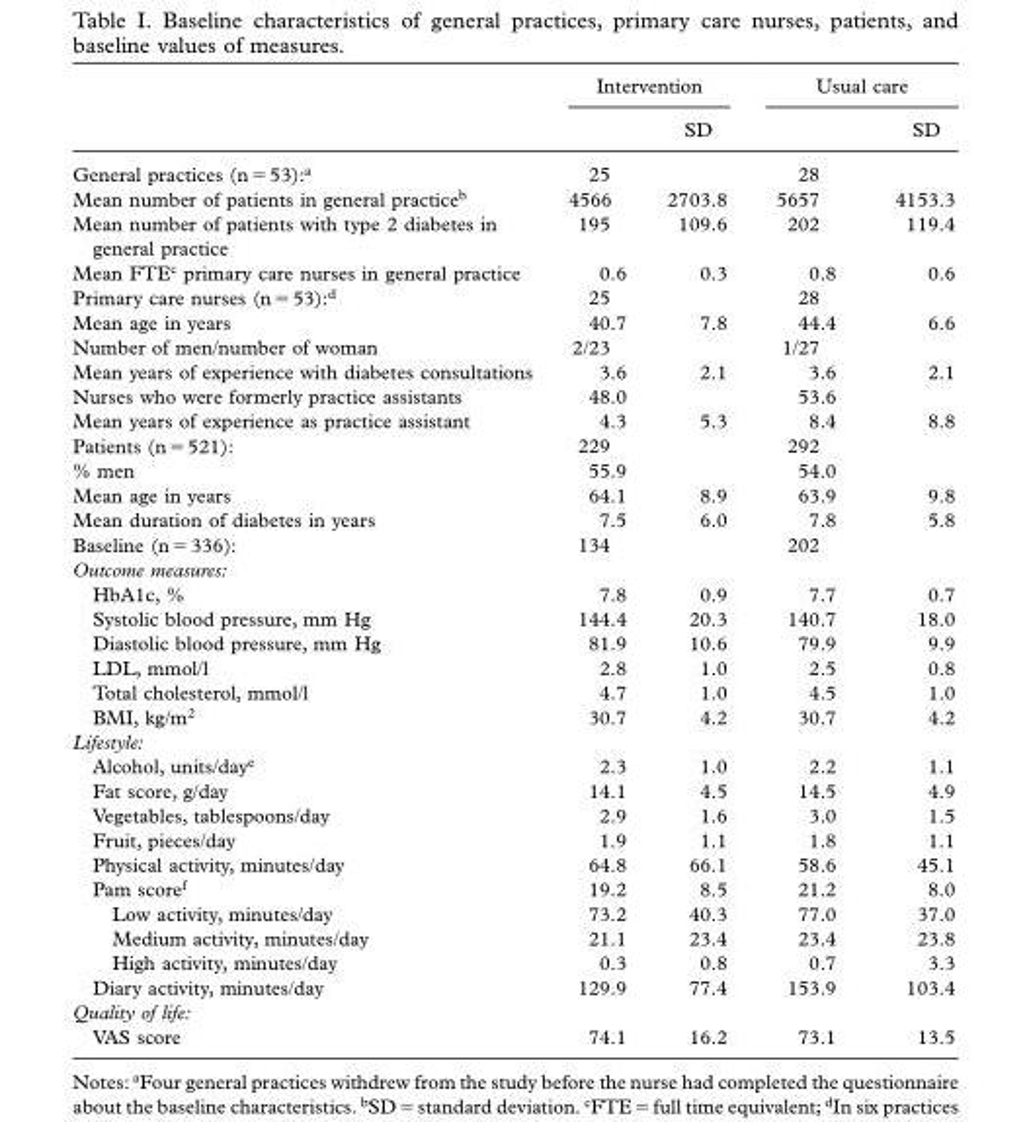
<table><thead><tr><td rowspan="2"></td><td colspan="2">Intervention</td><td colspan="2">Usual care</td></tr><tr><td></td><td>SD</td><td></td><td>SD</td></tr></thead><tbody><tr><td>General practices (n = 53): <sup>a</sup></td><td>25</td><td></td><td>28</td><td></td></tr><tr><td>Mean number of patients in general practice <sup>b</sup></td><td>4566</td><td>2703.8</td><td>5657</td><td>4153.3</td></tr><tr><td>Mean number of patients with type 2 diabetes in general practice</td><td>195</td><td>109.6</td><td>202</td><td>119.4</td></tr><tr><td>Mean FTE <sup>c</sup> primary care nurses in general practice</td><td>0.6</td><td>0.3</td><td>0.8</td><td>0.6</td></tr><tr><td>Primary care nurses (n = 53): <sup>d</sup></td><td>25</td><td></td><td>28</td><td></td></tr><tr><td>Mean age in years</td><td>40.7</td><td>7.8</td><td>44.4</td><td>6.6</td></tr><tr><td>Number of men/number of woman</td><td>2/23</td><td></td><td>1/27</td><td></td></tr><tr><td>Mean years of experience with diabetes consultations</td><td>3.6</td><td>2.1</td><td>3.6</td><td>2.1</td></tr><tr><td>Nurses who were formerly practice assistants</td><td>48.0</td><td></td><td>53.6</td><td></td></tr><tr><td>Mean years of experience as practice assistant</td><td>4.3</td><td>5.3</td><td>8.4</td><td>8.8</td></tr><tr><td>Patients (n = 521):</td><td>229</td><td></td><td>292</td><td></td></tr><tr><td>% men</td><td>55.9</td><td></td><td>54.0</td><td></td></tr><tr><td>Mean age in years</td><td>64.1</td><td>8.9</td><td>63.9</td><td>9.8</td></tr><tr><td>Mean duration of diabetes in years</td><td>7.5</td><td>6.0</td><td>7.8</td><td>5.8</td></tr><tr><td>Baseline (n = 336):</td><td>134</td><td></td><td>202</td><td></td></tr><tr><td colspan="5">Outcome measures:</td></tr><tr><td>HbA1c, %</td><td>7.8</td><td>0.9</td><td>7.7</td><td>0.7</td></tr><tr><td>Systolic blood pressure, mm Hg</td><td>144.4</td><td>20.3</td><td>140.7</td><td>18.0</td></tr><tr><td>Diastolic blood pressure, mm Hg</td><td>81.9</td><td>10.6</td><td>79.9</td><td>9.9</td></tr><tr><td>LDL, mmol/l</td><td>2.8</td><td>1.0</td><td>2.5</td><td>0.8</td></tr><tr><td>Total cholesterol, mmol/l</td><td>4.7</td><td>1.0</td><td>4.5</td><td>1.0</td></tr><tr><td>BMI, kg/m <sup>2</sup></td><td>30.7</td><td>4.2</td><td>30.7</td><td>4.2</td></tr><tr><td colspan="5">Lifestyle:</td></tr><tr><td>Alcohol, units/day <sup>e</sup></td><td>2.3</td><td>1.0</td><td>2.2</td><td>1.1</td></tr><tr><td>Fat score, g/day</td><td>14.1</td><td>4.5</td><td>14.5</td><td>4.9</td></tr><tr><td>Vegetables, tablespoons/day</td><td>2.9</td><td>1.6</td><td>3.0</td><td>1.5</td></tr><tr><td>Fruit, pieces/day</td><td>1.9</td><td>1.1</td><td>1.8</td><td>1.1</td></tr><tr><td>Physical activity, minutes/day</td><td>64.8</td><td>66.1</td><td>58.6</td><td>45.1</td></tr><tr><td>Pam score <sup>f</sup></td><td>19.2</td><td>8.5</td><td>21.2</td><td>8.0</td></tr><tr><td>Low activity, minutes/day</td><td>73.2</td><td>40.3</td><td>77.0</td><td>37.0</td></tr><tr><td>Medium activity, minutes/day</td><td>21.1</td><td>23.4</td><td>23.4</td><td>23.8</td></tr><tr><td>High activity, minutes/day</td><td>0.3</td><td>0.8</td><td>0.7</td><td>3.3</td></tr><tr><td>Diary activity, minutes/day</td><td>129.9</td><td>77.4</td><td>153.9</td><td>103.4</td></tr><tr><td colspan="5">Quality of life:</td></tr><tr><td>VAS score</td><td>74.1</td><td>16.2</td><td>73.1</td><td>13.5</td></tr></tbody></table>